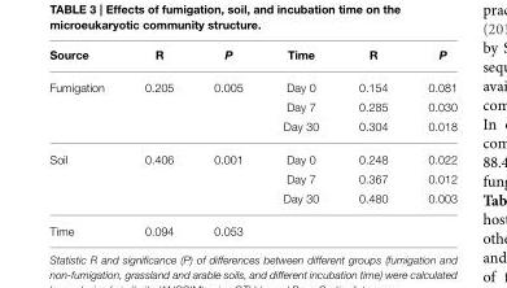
<table><thead><tr><td>Source</td><td>R</td><td>P</td><td>Time</td><td>R</td><td>P</td></tr></thead><tbody><tr><td rowspan="3">Fumigation</td><td>0.205</td><td>0.005</td><td>Day 0</td><td>0.154</td><td>0.081</td></tr><tr><td></td><td></td><td>Day 7</td><td>0.285</td><td>0.030</td></tr><tr><td></td><td></td><td>Day 30</td><td>0.304</td><td>0.018</td></tr><tr><td rowspan="3">Soil</td><td>0.406</td><td>0.001</td><td>Day 0</td><td>0.248</td><td>0.022</td></tr><tr><td></td><td></td><td>Day 7</td><td>0.367</td><td>0.012</td></tr><tr><td></td><td></td><td>Day 30</td><td>0.480</td><td>0.003</td></tr><tr><td>Time</td><td>0.094</td><td>0.053</td><td></td><td></td><td></td></tr></tbody></table>